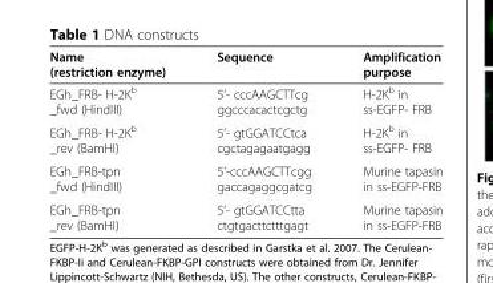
<table><thead><tr><td>Name (restriction enzyme)</td><td>Sequence</td><td>Amplification purpose</td></tr></thead><tbody><tr><td>EGh_FRB- H-2K<sup>b</sup> _fwd (HindIII)</td><td>5’- cccAAGCTTcg ggcccacactcgctg</td><td>H-2K<sup>b</sup> in ss-EGFP- FRB</td></tr><tr><td>EGh_FRB- H-2K<sup>b</sup> _rev (BamHI)</td><td>5’- gtGGATCCtca cgctagagaatgagg</td><td>H-2K<sup>b</sup> in ss-EGFP- FRB</td></tr><tr><td>EGh_FRB-tpn _fwd (HindIII)</td><td>5’-cccAAGCTTcgg gaccagaggcgatcg</td><td>Murine tapasin in ss-EGFP-FRB</td></tr><tr><td>EGh_FRB-tpn _rev (BamHI)</td><td>5’- gtGGATCCtta ctgtgacttctttgagt</td><td>Murine tapasin in ss-EGFP-FRB</td></tr></tbody></table>